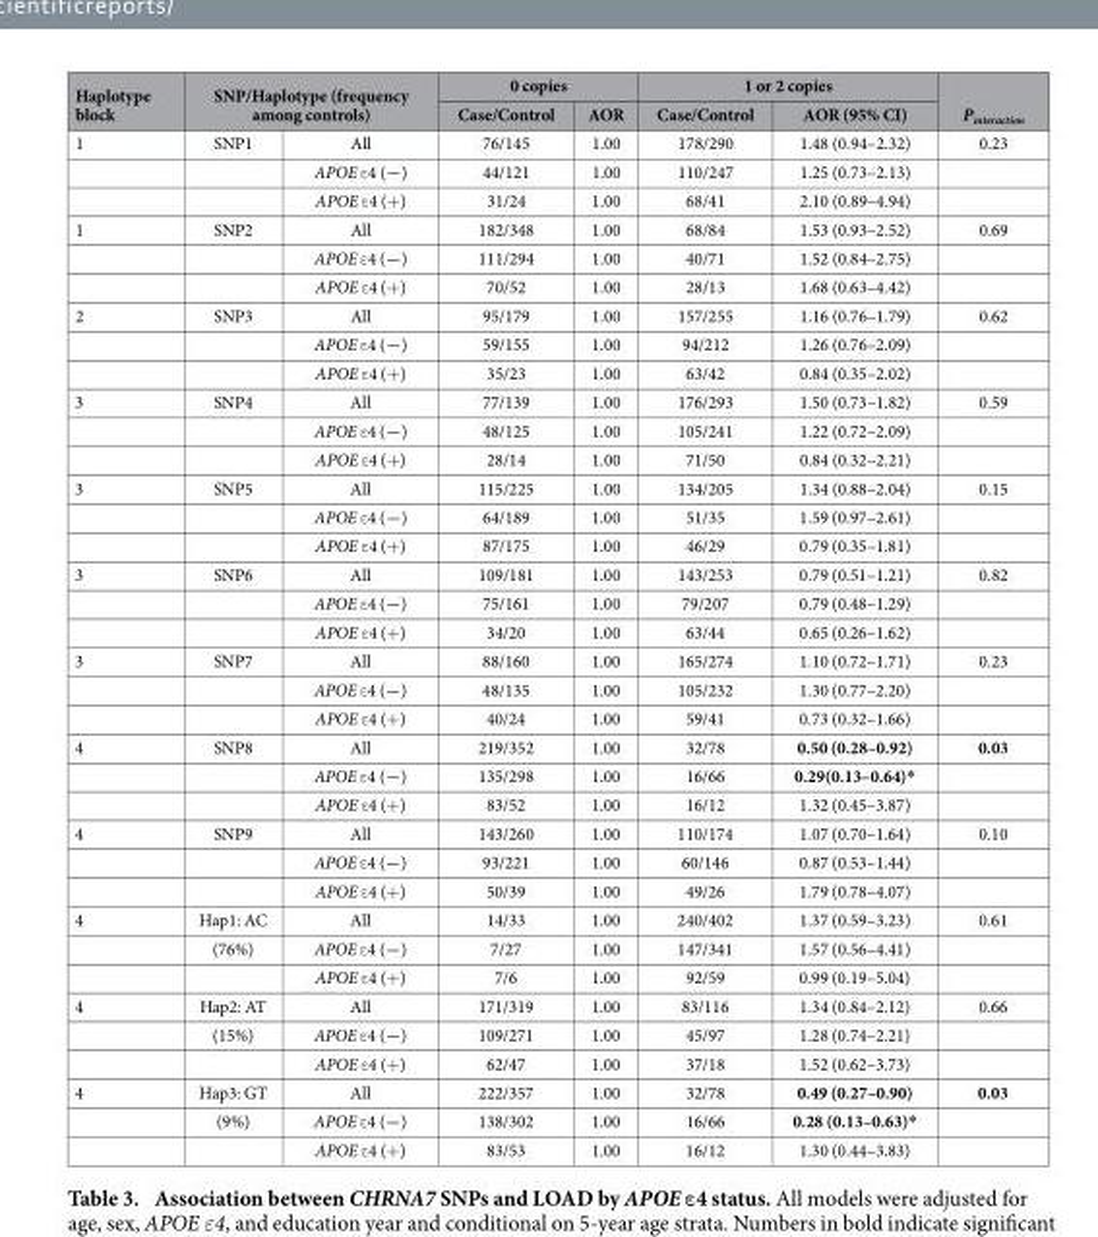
<table><thead><tr><td rowspan="3">Haplotype block 1</td><td rowspan="2" colspan="2">SNP/Haplotype (frequency among controls)</td><td colspan="2">0 copies</td><td colspan="2">1 or 2 copies</td><td rowspan="3">P<sub>interaction</sub> 0.23</td></tr><tr><td rowspan="2">Case/Control 76/145</td><td rowspan="2">AOR 1.00</td><td rowspan="2">Case/Control 178/290</td><td rowspan="2">AOR (95% CI) 1.48 (0.94–2.32)</td></tr><tr><td>SNP1</td><td>All</td></tr></thead><tbody><tr><td></td><td></td><td>APOE ε 4 (−)</td><td>44/121</td><td>1.00</td><td>110/247</td><td>1.25 (0.73–2.13)</td><td></td></tr><tr><td></td><td></td><td>APOE ε 4 (+ )</td><td>31/24</td><td>1.00</td><td>68/41</td><td>2.10 (0.89–4.94)</td><td></td></tr><tr><td rowspan="3">1</td><td>SNP2</td><td>All</td><td>182/348</td><td>1.00</td><td>68/84</td><td>1.53 (0.93–2.52)</td><td>0.69</td></tr><tr><td></td><td>APOE ε 4 (−)</td><td>111/294</td><td>1.00</td><td>40/71</td><td>1.52 (0.84–2.75)</td><td></td></tr><tr><td></td><td>APOE ε 4 (+ )</td><td>70/52</td><td>1.00</td><td>28/13</td><td>1.68 (0.63–4.42)</td><td></td></tr><tr><td rowspan="3">2</td><td>SNP3</td><td>All</td><td>95/179</td><td>1.00</td><td>157/255</td><td>1.16 (0.76–1.79)</td><td>0.62</td></tr><tr><td></td><td>APOE ε 4 (−)</td><td>59/155</td><td>1.00</td><td>94/212</td><td>1.26 (0.76–2.09)</td><td></td></tr><tr><td></td><td>APOE ε 4 (+ )</td><td>35/23</td><td>1.00</td><td>63/42</td><td>0.84 (0.35–2.02)</td><td></td></tr><tr><td rowspan="3">3</td><td>SNP4</td><td>All</td><td>77/139</td><td>1.00</td><td>176/293</td><td>1.50 (0.73–1.82)</td><td>0.59</td></tr><tr><td></td><td>APOE ε 4 (−)</td><td>48/125</td><td>1.00</td><td>105/241</td><td>1.22 (0.72–2.09)</td><td></td></tr><tr><td></td><td>APOE ε 4 (+ )</td><td>28/14</td><td>1.00</td><td>71/50</td><td>0.84 (0.32–2.21)</td><td></td></tr><tr><td rowspan="3">3</td><td>SNP5</td><td>All</td><td>115/225</td><td>1.00</td><td>134/205</td><td>1.34 (0.88–2.04)</td><td>0.15</td></tr><tr><td></td><td>APOE ε 4 (−)</td><td>64/189</td><td>1.00</td><td>51/35</td><td>1.59 (0.97–2.61)</td><td></td></tr><tr><td></td><td>APOE ε 4 (+ )</td><td>87/175</td><td>1.00</td><td>46/29</td><td>0.79 (0.35–1.81)</td><td></td></tr><tr><td rowspan="3">3</td><td>SNP6</td><td>All</td><td>109/181</td><td>1.00</td><td>143/253</td><td>0.79 (0.51–1.21)</td><td>0.82</td></tr><tr><td></td><td>APOE ε 4 (−)</td><td>75/161</td><td>1.00</td><td>79/207</td><td>0.79 (0.48–1.29)</td><td></td></tr><tr><td></td><td>APOE ε 4 (+ )</td><td>34/20</td><td>1.00</td><td>63/44</td><td>0.65 (0.26–1.62)</td><td></td></tr><tr><td rowspan="3">3</td><td>SNP7</td><td>All</td><td>88/160</td><td>1.00</td><td>165/274</td><td>1.10 (0.72–1.71)</td><td>0.23</td></tr><tr><td></td><td>APOE ε 4 (−)</td><td>48/135</td><td>1.00</td><td>105/232</td><td>1.30 (0.77–2.20)</td><td></td></tr><tr><td></td><td>APOE ε 4 (+ )</td><td>40/24</td><td>1.00</td><td>59/41</td><td>0.73 (0.32–1.66)</td><td></td></tr><tr><td rowspan="3">4</td><td>SNP8</td><td>All</td><td>219/352</td><td>1.00</td><td>32/78</td><td>0.50 (0.28–0.92)</td><td>0.03</td></tr><tr><td></td><td>APOE ε 4 (−)</td><td>135/298</td><td>1.00</td><td>16/66</td><td>0.29(0.13–0.64)*</td><td></td></tr><tr><td></td><td>APOE ε 4 (+ )</td><td>83/52</td><td>1.00</td><td>16/12</td><td>1.32 (0.45–3.87)</td><td></td></tr><tr><td rowspan="3">4</td><td>SNP9</td><td>All</td><td>143/260</td><td>1.00</td><td>110/174</td><td>1.07 (0.70–1.64)</td><td>0.10</td></tr><tr><td></td><td>APOE ε 4 (−)</td><td>93/221</td><td>1.00</td><td>60/146</td><td>0.87 (0.53–1.44)</td><td></td></tr><tr><td></td><td>APOE ε 4 (+ )</td><td>50/39</td><td>1.00</td><td>49/26</td><td>1.79 (0.78–4.07)</td><td></td></tr><tr><td rowspan="3">4</td><td>Hap1: AC</td><td>All</td><td>14/33</td><td>1.00</td><td>240/402</td><td>1.37 (0.59–3.23)</td><td>0.61</td></tr><tr><td>(76%)</td><td>APOE ε 4 (−)</td><td>7/27</td><td>1.00</td><td>147/341</td><td>1.57 (0.56–4.41)</td><td></td></tr><tr><td></td><td>APOE ε 4 (+ )</td><td>7/6</td><td>1.00</td><td>92/59</td><td>0.99 (0.19–5.04)</td><td></td></tr><tr><td rowspan="3">4</td><td>Hap2: AT</td><td>All</td><td>171/319</td><td>1.00</td><td>83/116</td><td>1.34 (0.84–2.12)</td><td>0.66</td></tr><tr><td>(15%)</td><td>APOE ε 4 (−)</td><td>109/271</td><td>1.00</td><td>45/97</td><td>1.28 (0.74–2.21)</td><td></td></tr><tr><td></td><td>APOE ε 4 (+ )</td><td>62/47</td><td>1.00</td><td>37/18</td><td>1.52 (0.62–3.73)</td><td></td></tr><tr><td rowspan="3">4</td><td>Hap3: GT</td><td>All</td><td>222/357</td><td>1.00</td><td>32/78</td><td>0.49 (0.27–0.90)</td><td>0.03</td></tr><tr><td>(9%)</td><td>APOE ε 4 (−)</td><td>138/302</td><td>1.00</td><td>16/66</td><td>0.28 (0.13–0.63)*</td><td></td></tr><tr><td></td><td>APOE ε 4 (+ )</td><td>83/53</td><td>1.00</td><td>16/12</td><td>1.30 (0.44–3.83)</td><td></td></tr></tbody></table>